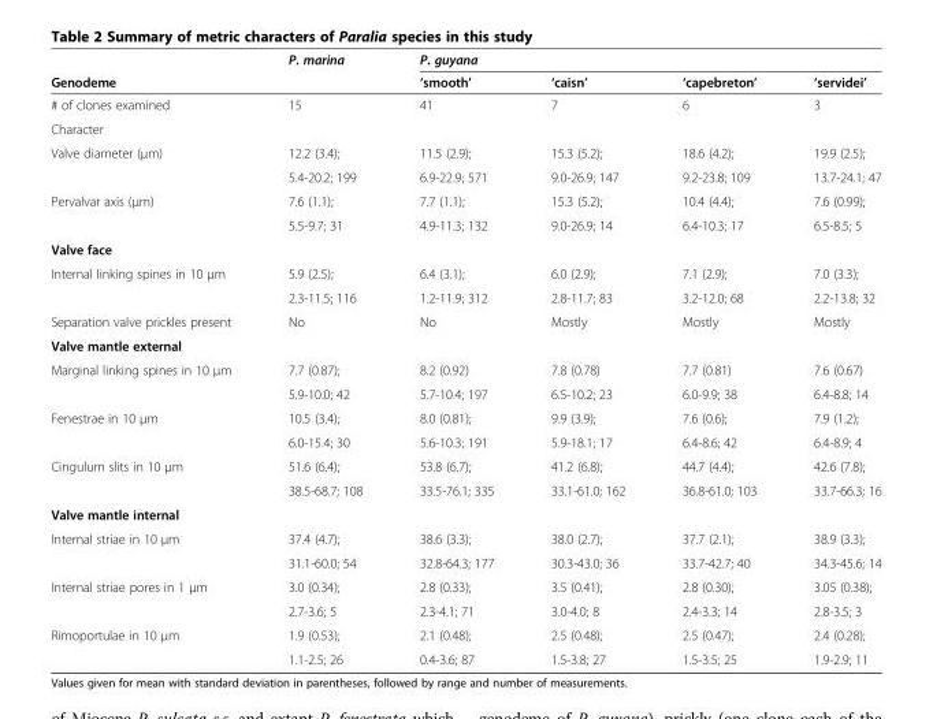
<table><thead><tr><td rowspan="2">Genodeme</td><td rowspan="2">P. marina</td><td colspan="4">P. guyana</td></tr><tr><td>‘smooth’</td><td>‘caisn’</td><td>‘capebreton’</td><td>‘servidei’</td></tr></thead><tbody><tr><td># of clones examined</td><td>15</td><td>41</td><td>7</td><td>6</td><td>3</td></tr><tr><td colspan="6">Character</td></tr><tr><td rowspan="2">Valve diameter (μm)</td><td>12.2 (3.4);</td><td>11.5 (2.9);</td><td>15.3 (5.2);</td><td>18.6 (4.2);</td><td>19.9 (2.5);</td></tr><tr><td>5.4-20.2; 199</td><td>6.9-22.9; 571</td><td>9.0-26.9; 147</td><td>9.2-23.8; 109</td><td>13.7-24.1; 47</td></tr><tr><td rowspan="2">Pervalvar axis (μm)</td><td>7.6 (1.1);</td><td>7.7 (1.1);</td><td>15.3 (5.2);</td><td>10.4 (4.4);</td><td>7.6 (0.99);</td></tr><tr><td>5.5-9.7; 31</td><td>4.9-11.3; 132</td><td>9.0-26.9; 14</td><td>6.4-10.3; 17</td><td>6.5-8.5; 5</td></tr><tr><td colspan="6">Valve face</td></tr><tr><td rowspan="2">Internal linking spines in 10 μm</td><td>5.9 (2.5);</td><td>6.4 (3.1);</td><td>6.0 (2.9);</td><td>7.1 (2.9);</td><td>7.0 (3.3);</td></tr><tr><td>2.3-11.5; 116</td><td>1.2-11.9; 312</td><td>2.8-11.7; 83</td><td>3.2-12.0; 68</td><td>2.2-13.8; 32</td></tr><tr><td>Separation valve prickles present</td><td>No</td><td>No</td><td>Mostly</td><td>Mostly</td><td>Mostly</td></tr><tr><td colspan="6">Valve mantle external</td></tr><tr><td rowspan="2">Marginal linking spines in 10 μm</td><td>7.7 (0.87);</td><td>8.2 (0.92)</td><td>7.8 (0.78)</td><td>7.7 (0.81)</td><td>7.6 (0.67)</td></tr><tr><td>5.9-10.0; 42</td><td>5.7-10.4; 197</td><td>6.5-10.2; 23</td><td>6.0-9.9; 38</td><td>6.4-8.8; 14</td></tr><tr><td rowspan="2">Fenestrae in 10 μm</td><td>10.5 (3.4);</td><td>8.0 (0.81);</td><td>9.9 (3.9);</td><td>7.6 (0.6);</td><td>7.9 (1.2);</td></tr><tr><td>6.0-15.4; 30</td><td>5.6-10.3; 191</td><td>5.9-18.1; 17</td><td>6.4-8.6; 42</td><td>6.4-8.9; 4</td></tr><tr><td rowspan="2">Cingulum slits in 10 μm</td><td>51.6 (6.4);</td><td>53.8 (6.7);</td><td>41.2 (6.8);</td><td>44.7 (4.4);</td><td>42.6 (7.8);</td></tr><tr><td>38.5-68.7; 108</td><td>33.5-76.1; 335</td><td>33.1-61.0; 162</td><td>36.8-61.0; 103</td><td>33.7-66.3; 16</td></tr><tr><td colspan="6">Valve mantle internal</td></tr><tr><td rowspan="2">Internal striae in 10 μm</td><td>37.4 (4.7);</td><td>38.6 (3.3);</td><td>38.0 (2.7);</td><td>37.7 (2.1);</td><td>38.9 (3.3);</td></tr><tr><td>31.1-60.0; 54</td><td>32.8-64.3; 177</td><td>30.3-43.0; 36</td><td>33.7-42.7; 40</td><td>34.3-45.6; 14</td></tr><tr><td rowspan="2">Internal striae pores in 1 μm</td><td>3.0 (0.34);</td><td>2.8 (0.33);</td><td>3.5 (0.41);</td><td>2.8 (0.30);</td><td>3.05 (0.38);</td></tr><tr><td>2.7-3.6; 5</td><td>2.3-4.1; 71</td><td>3.0-4.0; 8</td><td>2.4-3.3; 14</td><td>2.8-3.5; 3</td></tr><tr><td rowspan="2">Rimoportulae in 10 μm</td><td>1.9 (0.53);</td><td>2.1 (0.48);</td><td>2.5 (0.48);</td><td>2.5 (0.47);</td><td>2.4 (0.28);</td></tr><tr><td>1.1-2.5; 26</td><td>0.4-3.6; 87</td><td>1.5-3.8; 27</td><td>1.5-3.5; 25</td><td>1.9-2.9; 11</td></tr></tbody></table>